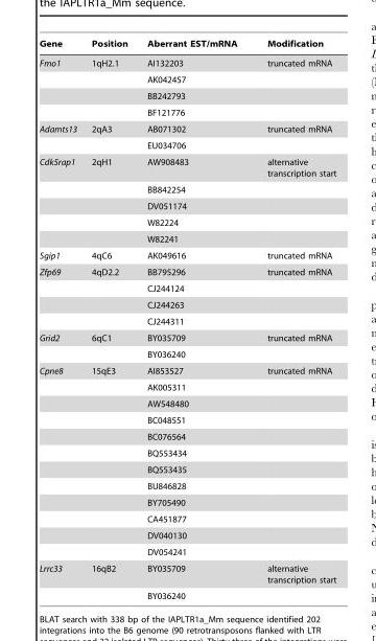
<table><thead><tr><td>Gene</td><td>Position</td><td>Aberrant EST/mRNA</td><td>Modification</td></tr></thead><tbody><tr><td rowspan="4">Fmo1</td><td>1qH2.1</td><td>AI132203</td><td>truncated mRNA</td></tr><tr><td></td><td>AK042457</td><td></td></tr><tr><td></td><td>BB242793</td><td></td></tr><tr><td></td><td>BF121776</td><td></td></tr><tr><td rowspan="2">Adamts13</td><td>2qA3</td><td>AB071302</td><td>truncated mRNA</td></tr><tr><td></td><td>EU034706</td><td></td></tr><tr><td rowspan="5">Cdk5rap1</td><td>2qH1</td><td>AW908483</td><td>alternative transcription start</td></tr><tr><td></td><td>BB842254</td><td></td></tr><tr><td></td><td>DV051174</td><td></td></tr><tr><td></td><td>W82224</td><td></td></tr><tr><td></td><td>W82241</td><td></td></tr><tr><td>Sgip1</td><td>4qC6</td><td>AK049616</td><td>truncated mRNA</td></tr><tr><td rowspan="4">Zfp69</td><td>4qD2.2</td><td>BB795296</td><td>truncated mRNA</td></tr><tr><td></td><td>CJ244124</td><td></td></tr><tr><td></td><td>CJ244263</td><td></td></tr><tr><td></td><td>CJ244311</td><td></td></tr><tr><td rowspan="2">Grid2</td><td>6qC1</td><td>BY035709</td><td>truncated mRNA</td></tr><tr><td></td><td>BY036240</td><td></td></tr><tr><td rowspan="12">Cpne8</td><td>15qE3</td><td>AI853527</td><td>truncated mRNA</td></tr><tr><td></td><td>AK005311</td><td></td></tr><tr><td></td><td>AW548480</td><td></td></tr><tr><td></td><td>BC048551</td><td></td></tr><tr><td></td><td>BC076564</td><td></td></tr><tr><td></td><td>BQ553434</td><td></td></tr><tr><td></td><td>BQ553435</td><td></td></tr><tr><td></td><td>BU846828</td><td></td></tr><tr><td></td><td>BY705490</td><td></td></tr><tr><td></td><td>CA451877</td><td></td></tr><tr><td></td><td>DV040130</td><td></td></tr><tr><td></td><td>DV054241</td><td></td></tr><tr><td rowspan="2">Lrrc33</td><td>16qB2</td><td>BY035709</td><td>alternative transcription start</td></tr><tr><td></td><td>BY036240</td><td></td></tr></tbody></table>